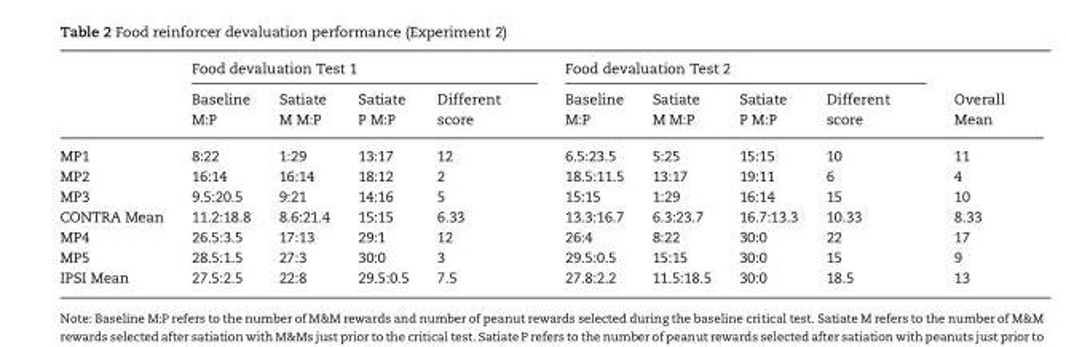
<table><thead><tr><td rowspan="2"></td><td colspan="4">Food devaluation Test 1</td><td colspan="4">Food devaluation Test 2</td><td rowspan="2">Overall Mean</td></tr><tr><td>Baseline M:P</td><td>Satiate M M:P</td><td>Satiate P M:P</td><td>Different score</td><td>Baseline M:P</td><td>Satiate M M:P</td><td>Satiate P M:P</td><td>Different score</td></tr></thead><tbody><tr><td>MP1</td><td>8:22</td><td>1:29</td><td>13:17</td><td>12</td><td>6.5:23.5</td><td>5:25</td><td>15:15</td><td>10</td><td>11</td></tr><tr><td>MP2</td><td>16:14</td><td>16:14</td><td>18:12</td><td>2</td><td>18.5:11.5</td><td>13:17</td><td>19:11</td><td>6</td><td>4</td></tr><tr><td>MP3</td><td>9.5:20.5</td><td>9:21</td><td>14:16</td><td>5</td><td>15:15</td><td>1:29</td><td>16:14</td><td>15</td><td>10</td></tr><tr><td>CONTRA Mean</td><td>11.2:18.8</td><td>8.6:21.4</td><td>15:15</td><td>6.33</td><td>13.3:16.7</td><td>6.3:23.7</td><td>16.7:13.3</td><td>10.33</td><td>8.33</td></tr><tr><td>MP4</td><td>26.5:3.5</td><td>17:13</td><td>29:1</td><td>12</td><td>26:4</td><td>8:22</td><td>30:0</td><td>22</td><td>17</td></tr><tr><td>MP5</td><td>28.5:1.5</td><td>27:3</td><td>30:0</td><td>3</td><td>29.5:0.5</td><td>15:15</td><td>30:0</td><td>15</td><td>9</td></tr><tr><td>IPSI Mean</td><td>27.5:2.5</td><td>22:8</td><td>29.5:0.5</td><td>7.5</td><td>27.8:2.2</td><td>11.5:18.5</td><td>30:0</td><td>18.5</td><td>13</td></tr></tbody></table>